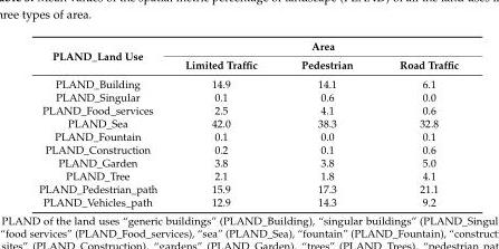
<table><thead><tr><td rowspan="2">PLAND_Land Use</td><td colspan="3">Area</td></tr><tr><td>Limited Traffic</td><td>Pedestrian</td><td>Road Traffic</td></tr></thead><tbody><tr><td>PLAND_Building</td><td>14.9</td><td>14.1</td><td>6.1</td></tr><tr><td>PLAND_Singular</td><td>0.1</td><td>0.6</td><td>0.0</td></tr><tr><td>PLAND_Food_services</td><td>2.5</td><td>4.1</td><td>0.6</td></tr><tr><td>PLAND_Sea</td><td>42.0</td><td>38.3</td><td>32.8</td></tr><tr><td>PLAND_Fountain</td><td>0.1</td><td>0.0</td><td>0.1</td></tr><tr><td>PLAND_Construction</td><td>0.2</td><td>0.1</td><td>0.6</td></tr><tr><td>PLAND_Garden</td><td>3.8</td><td>3.8</td><td>5.0</td></tr><tr><td>PLAND_Tree</td><td>2.1</td><td>1.8</td><td>4.1</td></tr><tr><td>PLAND_Pedestrian_path</td><td>15.9</td><td>17.3</td><td>21.1</td></tr><tr><td>PLAND_Vehicles_path</td><td>12.9</td><td>14.3</td><td>9.2</td></tr></tbody></table>